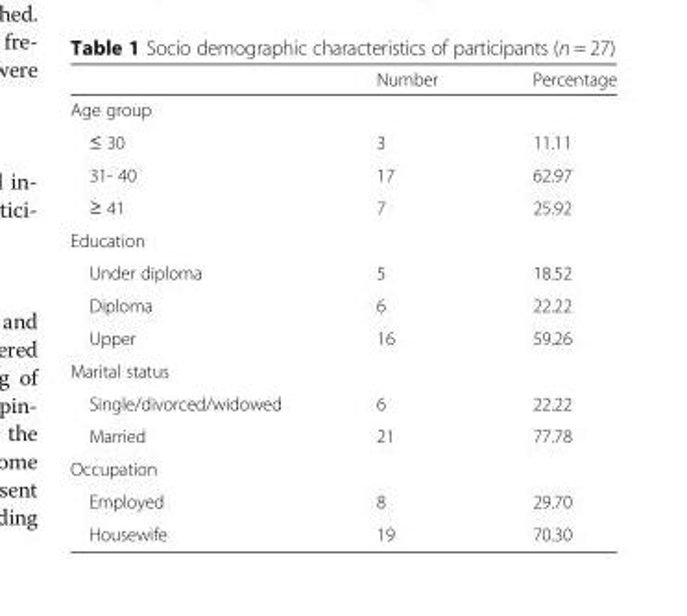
<table><thead><tr><td></td><td>Number</td><td>Percentage</td></tr></thead><tbody><tr><td colspan="3">Age group</td></tr><tr><td>≤ 30</td><td>3</td><td>11.11</td></tr><tr><td>31- 40</td><td>17</td><td>62.97</td></tr><tr><td>≥ 41</td><td>7</td><td>25.92</td></tr><tr><td colspan="3">Education</td></tr><tr><td>Under diploma</td><td>5</td><td>18.52</td></tr><tr><td>Diploma</td><td>6</td><td>22.22</td></tr><tr><td>Upper</td><td>16</td><td>59.26</td></tr><tr><td colspan="3">Marital status</td></tr><tr><td>Single/divorced/widowed</td><td>6</td><td>22.22</td></tr><tr><td>Married</td><td>21</td><td>77.78</td></tr><tr><td colspan="3">Occupation</td></tr><tr><td>Employed</td><td>8</td><td>29.70</td></tr><tr><td>Housewife</td><td>19</td><td>70.30</td></tr></tbody></table>